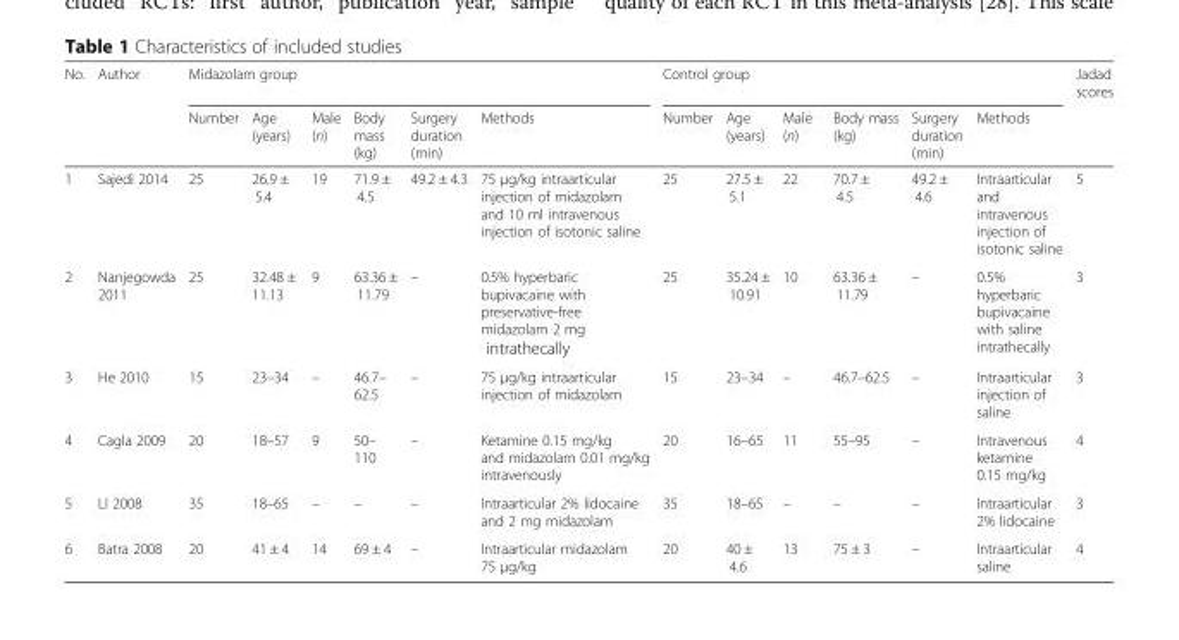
<table><thead><tr><td rowspan="2">No.</td><td rowspan="2">Author</td><td colspan="6">Midazolam group</td><td colspan="6">Control group</td><td rowspan="2">Jadad scores</td></tr><tr><td>Number</td><td>Age (years)</td><td>Male (n)</td><td>Body mass (kg)</td><td>Surgery duration (min)</td><td>Methods</td><td>Number</td><td>Age (years)</td><td>Male (n)</td><td>Body mass (kg)</td><td>Surgery duration (min)</td><td>Methods</td></tr></thead><tbody><tr><td>1</td><td>Sajedi 2014</td><td>25</td><td>26.9 ± 5.4</td><td>19</td><td>71.9 ± 4.5</td><td>49.2 ± 4.3</td><td>75 μg/kg intraarticular injection of midazolam and 10 ml intravenous injection of isotonic saline</td><td>25</td><td>27.5 ± 5.1</td><td>22</td><td>70.7 ± 4.5</td><td>49.2 ± 4.6</td><td>Intraarticular and intravenous injection of isotonic saline</td><td>5</td></tr><tr><td>2</td><td>Nanjegowda 2011</td><td>25</td><td>32.48 ± 11.13</td><td>9</td><td>63.36 ± 11.79</td><td>–</td><td>0.5% hyperbaric bupivacaine with preservative-free midazolam 2 mg intrathecally</td><td>25</td><td>35.24 ± 10.91</td><td>10</td><td>63.36 ± 11.79</td><td>–</td><td>0.5% hyperbaric bupivacaine with saline intrathecally</td><td>3</td></tr><tr><td>3</td><td>He 2010</td><td>15</td><td>23–34</td><td>–</td><td>46.7– 62.5</td><td>–</td><td>75 μg/kg intraarticular injection of midazolam</td><td>15</td><td>23–34</td><td>–</td><td>46.7–62.5</td><td>–</td><td>Intraarticular injection of saline</td><td>3</td></tr><tr><td>4</td><td>Cagla 2009</td><td>20</td><td>18–57</td><td>9</td><td>50– 110</td><td>–</td><td>Ketamine 0.15 mg/kg and midazolam 0.01 mg/kg intravenously</td><td>20</td><td>16–65</td><td>11</td><td>55–95</td><td>–</td><td>Intravenous ketamine 0.15 mg/kg</td><td>4</td></tr><tr><td>5</td><td>LI 2008</td><td>35</td><td>18–65</td><td>–</td><td>–</td><td>–</td><td>Intraarticular 2% lidocaine and 2 mg midazolam</td><td>35</td><td>18–65</td><td>–</td><td>–</td><td>–</td><td>Intraarticular 2% lidocaine</td><td>3</td></tr><tr><td>6</td><td>Batra 2008</td><td>20</td><td>41 ± 4</td><td>14</td><td>69 ± 4</td><td>–</td><td>Intraarticular midazolam 75 μg/kg</td><td>20</td><td>40 ± 4.6</td><td>13</td><td>75 ± 3</td><td>–</td><td>Intraarticular saline</td><td>4</td></tr></tbody></table>